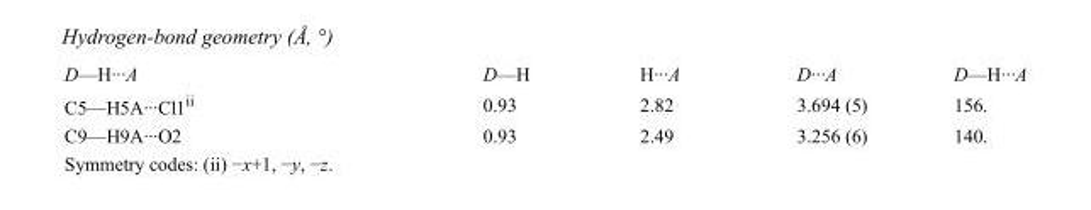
<table><tbody><tr><td>D—H···A</td><td>D—H</td><td>H···A</td><td>D···A</td><td>D—H···A</td></tr><tr><td>C5—H5A···Cl1<sup>ii</sup></td><td>0.93</td><td>2.82</td><td>3.694 (5)</td><td>156.</td></tr><tr><td>C9—H9A···O2</td><td>0.93</td><td>2.49</td><td>3.256 (6)</td><td>140.</td></tr></tbody></table>